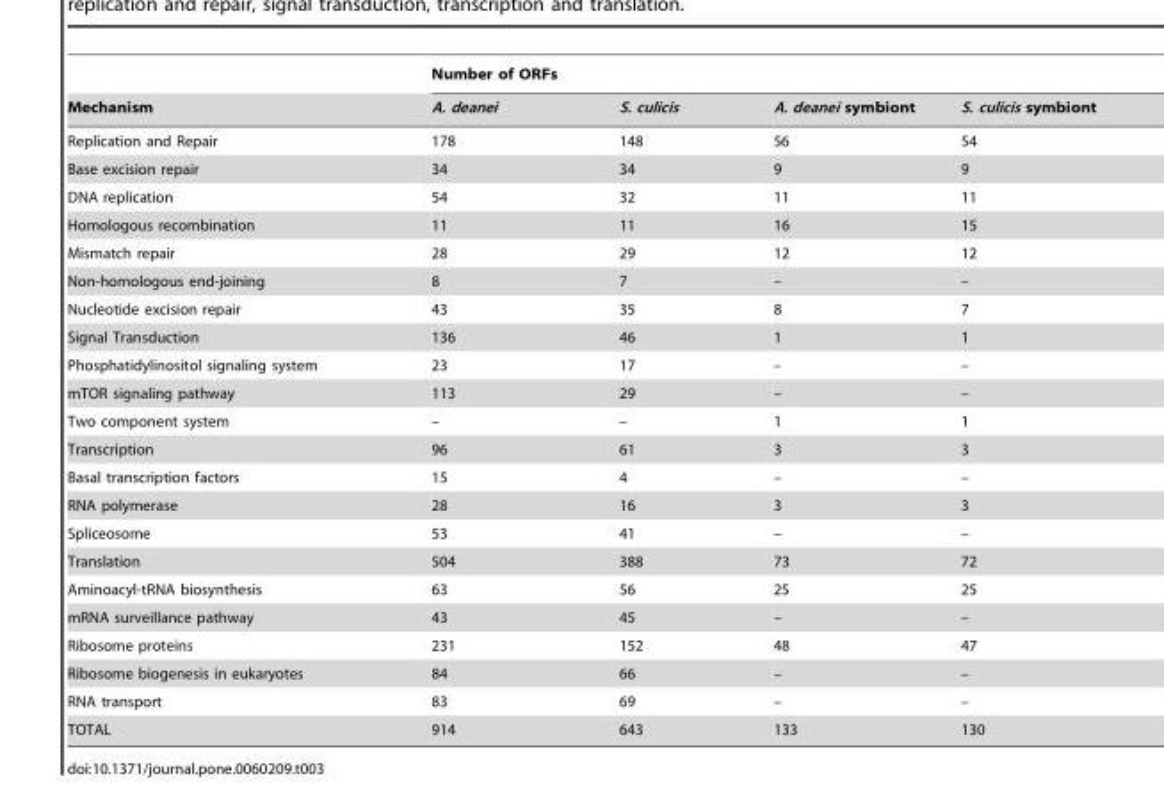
<table><thead><tr><td rowspan="2">Mechanism</td><td colspan="4">Number of ORFs</td></tr><tr><td>A. deanei</td><td>S. culicis</td><td>A. deanei symbiont</td><td>S. culicis symbiont</td></tr></thead><tbody><tr><td>Replication and Repair</td><td>178</td><td>148</td><td>56</td><td>54</td></tr><tr><td>Base excision repair</td><td>34</td><td>34</td><td>9</td><td>9</td></tr><tr><td>DNA replication</td><td>54</td><td>32</td><td>11</td><td>11</td></tr><tr><td>Homologous recombination</td><td>11</td><td>11</td><td>16</td><td>15</td></tr><tr><td>Mismatch repair</td><td>28</td><td>29</td><td>12</td><td>12</td></tr><tr><td>Non-homologous end-joining</td><td>8</td><td>7</td><td>–</td><td>–</td></tr><tr><td>Nucleotide excision repair</td><td>43</td><td>35</td><td>8</td><td>7</td></tr><tr><td>Signal Transduction</td><td>136</td><td>46</td><td>1</td><td>1</td></tr><tr><td>Phosphatidylinositol signaling system</td><td>23</td><td>17</td><td>–</td><td>–</td></tr><tr><td>mTOR signaling pathway</td><td>113</td><td>29</td><td>–</td><td>–</td></tr><tr><td>Two component system</td><td>–</td><td>–</td><td>1</td><td>1</td></tr><tr><td>Transcription</td><td>96</td><td>61</td><td>3</td><td>3</td></tr><tr><td>Basal transcription factors</td><td>15</td><td>4</td><td>–</td><td>–</td></tr><tr><td>RNA polymerase</td><td>28</td><td>16</td><td>3</td><td>3</td></tr><tr><td>Spliceosome</td><td>53</td><td>41</td><td>–</td><td>–</td></tr><tr><td>Translation</td><td>504</td><td>388</td><td>73</td><td>72</td></tr><tr><td>Aminoacyl-tRNA biosynthesis</td><td>63</td><td>56</td><td>25</td><td>25</td></tr><tr><td>mRNA surveillance pathway</td><td>43</td><td>45</td><td>–</td><td>–</td></tr><tr><td>Ribosome proteins</td><td>231</td><td>152</td><td>48</td><td>47</td></tr><tr><td>Ribosome biogenesis in eukaryotes</td><td>84</td><td>66</td><td>–</td><td>–</td></tr><tr><td>RNA transport</td><td>83</td><td>69</td><td>–</td><td>–</td></tr><tr><td>TOTAL</td><td>914</td><td>643</td><td>133</td><td>130</td></tr></tbody></table>